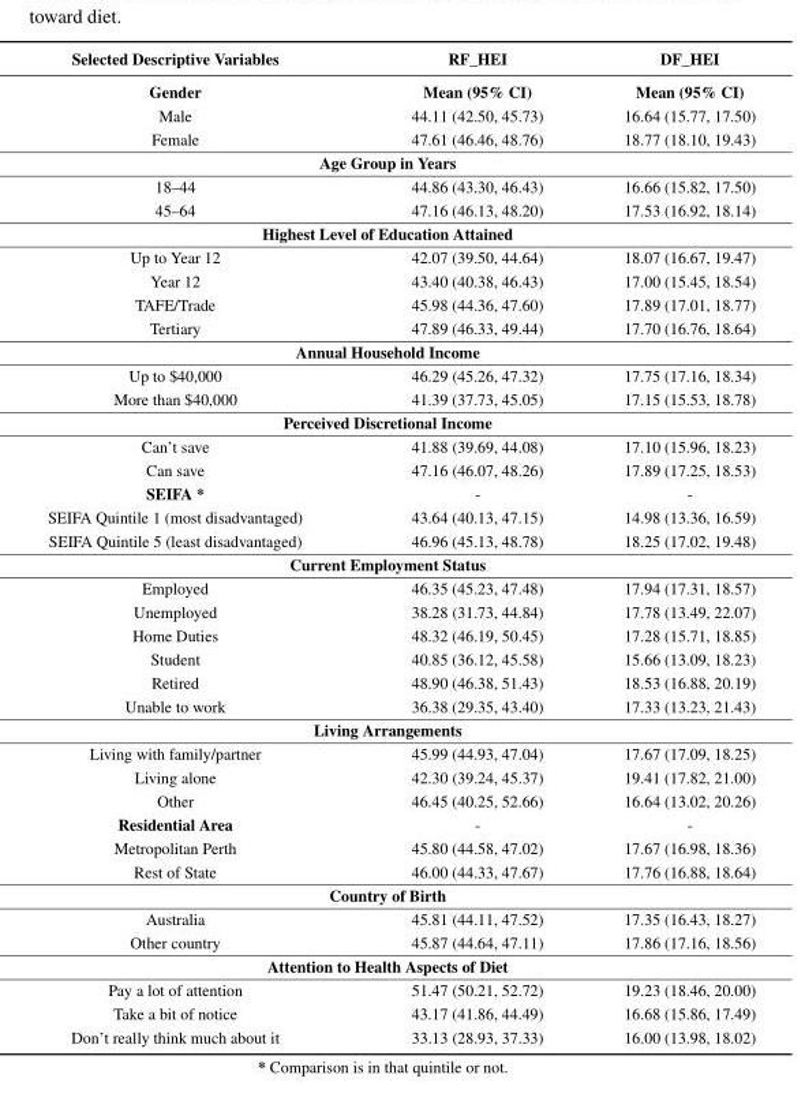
<table><thead><tr><td>Selected Descriptive Variables</td><td>RF_HEI</td><td>DF_HEI</td></tr></thead><tbody><tr><td>Gender</td><td>Mean (95% CI)</td><td>Mean (95% CI)</td></tr><tr><td>Male</td><td>44.11 (42.50, 45.73)</td><td>16.64 (15.77, 17.50)</td></tr><tr><td>Female</td><td>47.61 (46.46, 48.76)</td><td>18.77 (18.10, 19.43)</td></tr><tr><td colspan="3">Age Group in Years</td></tr><tr><td>18–44</td><td>44.86 (43.30, 46.43)</td><td>16.66 (15.82, 17.50)</td></tr><tr><td>45–64</td><td>47.16 (46.13, 48.20)</td><td>17.53 (16.92, 18.14)</td></tr><tr><td colspan="3">Highest Level of Education Attained</td></tr><tr><td>Up to Year 12</td><td>42.07 (39.50, 44.64)</td><td>18.07 (16.67, 19.47)</td></tr><tr><td>Year 12</td><td>43.40 (40.38, 46.43)</td><td>17.00 (15.45, 18.54)</td></tr><tr><td>TAFE/Trade</td><td>45.98 (44.36, 47.60)</td><td>17.89 (17.01, 18.77)</td></tr><tr><td>Tertiary</td><td>47.89 (46.33, 49.44)</td><td>17.70 (16.76, 18.64)</td></tr><tr><td colspan="3">Annual Household Income</td></tr><tr><td>Up to $40,000</td><td>46.29 (45.26, 47.32)</td><td>17.75 (17.16, 18.34)</td></tr><tr><td>More than $40,000</td><td>41.39 (37.73, 45.05)</td><td>17.15 (15.53, 18.78)</td></tr><tr><td colspan="3">Perceived Discretional Income</td></tr><tr><td>Can’t save</td><td>41.88 (39.69, 44.08)</td><td>17.10 (15.96, 18.23)</td></tr><tr><td>Can save</td><td>47.16 (46.07, 48.26)</td><td>17.89 (17.25, 18.53)</td></tr><tr><td>SEIFA *</td><td>-</td><td>-</td></tr><tr><td>SEIFA Quintile 1 (most disadvantaged)</td><td>43.64 (40.13, 47.15)</td><td>14.98 (13.36, 16.59)</td></tr><tr><td>SEIFA Quintile 5 (least disadvantaged)</td><td>46.96 (45.13, 48.78)</td><td>18.25 (17.02, 19.48)</td></tr><tr><td colspan="3">Current Employment Status</td></tr><tr><td>Employed</td><td>46.35 (45.23, 47.48)</td><td>17.94 (17.31, 18.57)</td></tr><tr><td>Unemployed</td><td>38.28 (31.73, 44.84)</td><td>17.78 (13.49, 22.07)</td></tr><tr><td>Home Duties</td><td>48.32 (46.19, 50.45)</td><td>17.28 (15.71, 18.85)</td></tr><tr><td>Student</td><td>40.85 (36.12, 45.58)</td><td>15.66 (13.09, 18.23)</td></tr><tr><td>Retired</td><td>48.90 (46.38, 51.43)</td><td>18.53 (16.88, 20.19)</td></tr><tr><td>Unable to work</td><td>36.38 (29.35, 43.40)</td><td>17.33 (13.23, 21.43)</td></tr><tr><td colspan="3">Living Arrangements</td></tr><tr><td>Living with family/partner</td><td>45.99 (44.93, 47.04)</td><td>17.67 (17.09, 18.25)</td></tr><tr><td>Living alone</td><td>42.30 (39.24, 45.37)</td><td>19.41 (17.82, 21.00)</td></tr><tr><td>Other</td><td>46.45 (40.25, 52.66)</td><td>16.64 (13.02, 20.26)</td></tr><tr><td>Residential Area</td><td>-</td><td>-</td></tr><tr><td>Metropolitan Perth</td><td>45.80 (44.58, 47.02)</td><td>17.67 (16.98, 18.36)</td></tr><tr><td>Rest of State</td><td>46.00 (44.33, 47.67)</td><td>17.76 (16.88, 18.64)</td></tr><tr><td colspan="3">Country of Birth</td></tr><tr><td>Australia</td><td>45.81 (44.11, 47.52)</td><td>17.35 (16.43, 18.27)</td></tr><tr><td>Other country</td><td>45.87 (44.64, 47.11)</td><td>17.86 (17.16, 18.56)</td></tr><tr><td colspan="3">Attention to Health Aspects of Diet</td></tr><tr><td>Pay a lot of attention</td><td>51.47 (50.21, 52.72)</td><td>19.23 (18.46, 20.00)</td></tr><tr><td>Take a bit of notice</td><td>43.17 (41.86, 44.49)</td><td>16.68 (15.86, 17.49)</td></tr><tr><td>Don’t really think much about it</td><td>33.13 (28.93, 37.33)</td><td>16.00 (13.98, 18.02)</td></tr></tbody></table>